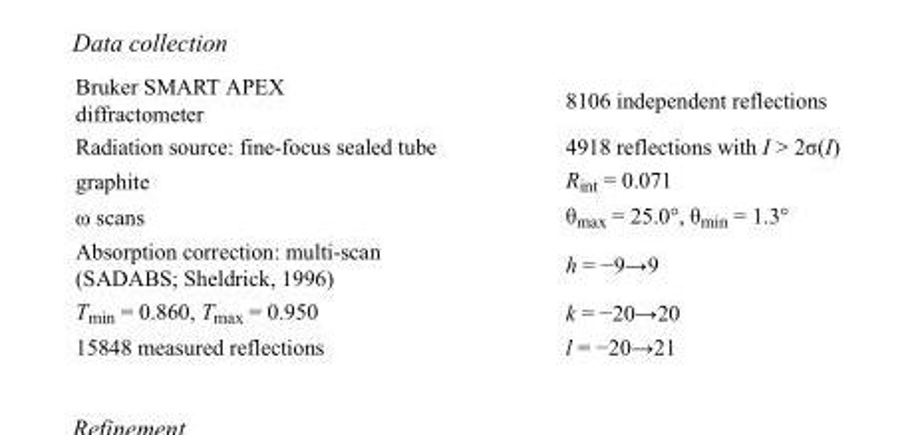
<table><tbody><tr><td>Bruker SMART APEX diffractometer</td><td>8106 independent reflections</td></tr><tr><td>Radiation source: fine-focus sealed tube</td><td>4918 reflections with I &gt; 2σ(I)</td></tr><tr><td>graphite</td><td>R<sub>int</sub> = 0.071</td></tr><tr><td>ω scans</td><td>θ<sub>max</sub> = 25.0°, θ<sub>min</sub> = 1.3°</td></tr><tr><td>Absorption correction: multi-scan (SADABS; Sheldrick, 1996)</td><td>h = −9→9</td></tr><tr><td>T<sub>min</sub> = 0.860, T<sub>max</sub> = 0.950</td><td>k = −20→20</td></tr><tr><td>15848 measured reflections</td><td>l = −20→21</td></tr></tbody></table>